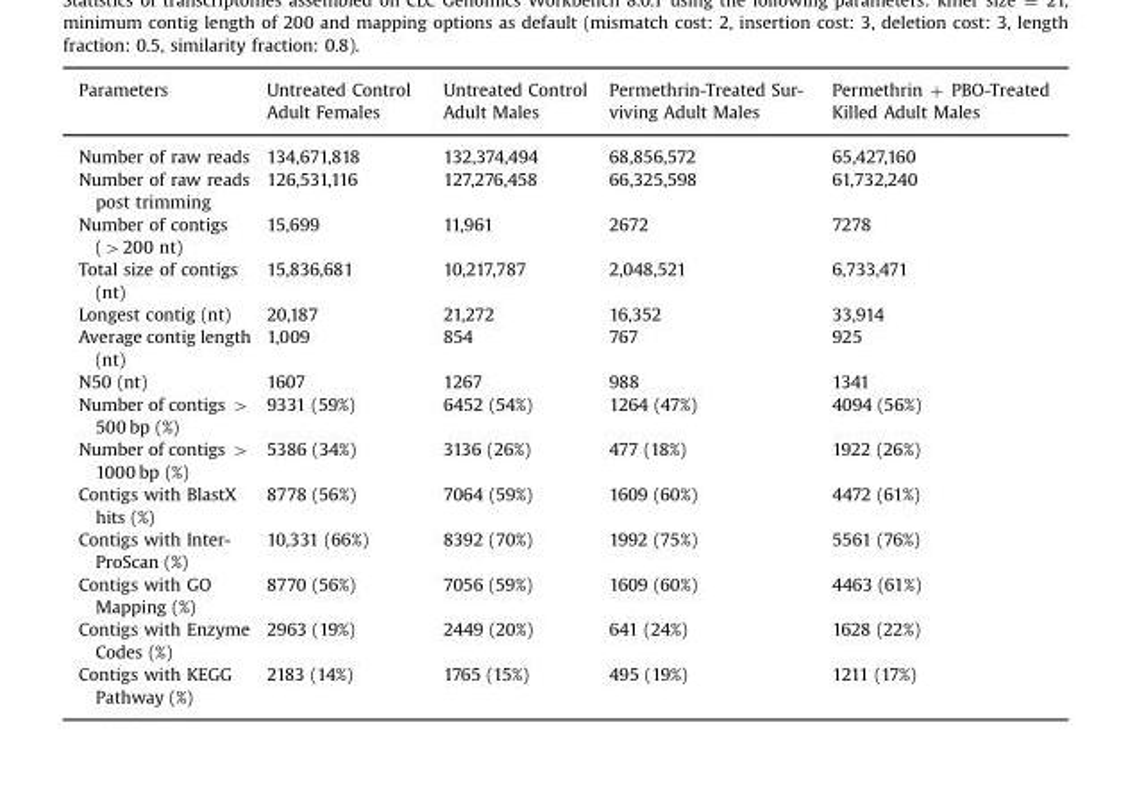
<table><thead><tr><td>Parameters</td><td>Untreated Control Adult Females</td><td>Untreated Control Adult Males</td><td>Permethrin-Treated Sur- viving Adult Males</td><td>Permethrin + PBO-Treated Killed Adult Males</td></tr></thead><tbody><tr><td>Number of raw reads</td><td>134,671,818</td><td>132,374,494</td><td>68,856,572</td><td>65,427,160</td></tr><tr><td>Number of raw reads post trimming</td><td>126,531,116</td><td>127,276,458</td><td>66,325,598</td><td>61,732,240</td></tr><tr><td>Number of contigs (&gt;200 nt)</td><td>15,699</td><td>11,961</td><td>2672</td><td>7278</td></tr><tr><td>Total size of contigs (nt)</td><td>15,836,681</td><td>10,217,787</td><td>2,048,521</td><td>6,733,471</td></tr><tr><td>Longest contig (nt)</td><td>20,187</td><td>21,272</td><td>16,352</td><td>33,914</td></tr><tr><td>Average contig length (nt)</td><td>1,009</td><td>854</td><td>767</td><td>925</td></tr><tr><td>N50 (nt)</td><td>1607</td><td>1267</td><td>988</td><td>1341</td></tr><tr><td>Number of contigs &gt; 500 bp (%)</td><td>9331 (59%)</td><td>6452 (54%)</td><td>1264 (47%)</td><td>4094 (56%)</td></tr><tr><td>Number of contigs &gt; 1000 bp (%)</td><td>5386 (34%)</td><td>3136 (26%)</td><td>477 (18%)</td><td>1922 (26%)</td></tr><tr><td>Contigs with BlastX hits (%)</td><td>8778 (56%)</td><td>7064 (59%)</td><td>1609 (60%)</td><td>4472 (61%)</td></tr><tr><td>Contigs with Inter- ProScan (%)</td><td>10,331 (66%)</td><td>8392 (70%)</td><td>1992 (75%)</td><td>5561 (76%)</td></tr><tr><td>Contigs with GO Mapping (%)</td><td>8770 (56%)</td><td>7056 (59%)</td><td>1609 (60%)</td><td>4463 (61%)</td></tr><tr><td>Contigs with Enzyme Codes (%)</td><td>2963 (19%)</td><td>2449 (20%)</td><td>641 (24%)</td><td>1628 (22%)</td></tr><tr><td>Contigs with KEGG Pathway (%)</td><td>2183 (14%)</td><td>1765 (15%)</td><td>495 (19%)</td><td>1211 (17%)</td></tr></tbody></table>